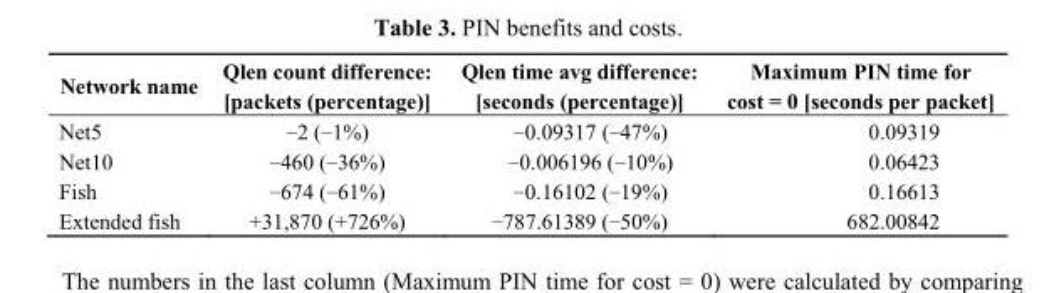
<table><thead><tr><td>Network name</td><td>Qlen count difference: [packets (percentage)]</td><td>Qlen time avg difference: [seconds (percentage)]</td><td>Maximum PIN time for cost = 0 [seconds per packet]</td></tr></thead><tbody><tr><td>Net5</td><td>−2 (−1%)</td><td>−0.09317 (−47%)</td><td>0.09319</td></tr><tr><td>Net10</td><td>−460 (−36%)</td><td>−0.006196 (−10%)</td><td>0.06423</td></tr><tr><td>Fish</td><td>−674 (−61%)</td><td>−0.16102 (−19%)</td><td>0.16613</td></tr><tr><td>Extended fish</td><td>+31,870 (+726%)</td><td>−787.61389 (−50%)</td><td>682.00842</td></tr></tbody></table>